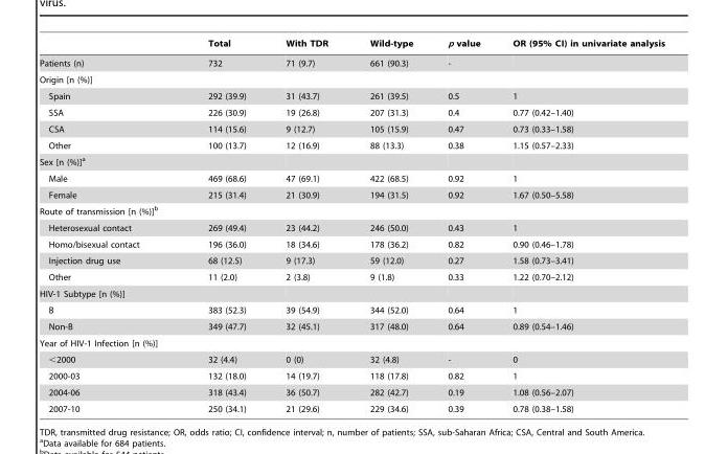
<table><thead><tr><td></td><td>Total</td><td>With TDR</td><td>Wild-type</td><td>p value</td><td>OR (95% CI) in univariate analysis</td></tr></thead><tbody><tr><td>Patients (n)</td><td>732</td><td>71 (9.7)</td><td>661 (90.3)</td><td>-</td><td></td></tr><tr><td colspan="6">Origin [n (%)]</td></tr><tr><td>Spain</td><td>292 (39.9)</td><td>31 (43.7)</td><td>261 (39.5)</td><td>0.5</td><td>1</td></tr><tr><td>SSA</td><td>226 (30.9)</td><td>19 (26.8)</td><td>207 (31.3)</td><td>0.4</td><td>0.77 (0.42–1.40)</td></tr><tr><td>CSA</td><td>114 (15.6)</td><td>9 (12.7)</td><td>105 (15.9)</td><td>0.47</td><td>0.73 (0.33–1.58)</td></tr><tr><td>Other</td><td>100 (13.7)</td><td>12 (16.9)</td><td>88 (13.3)</td><td>0.38</td><td>1.15 (0.57–2.33)</td></tr><tr><td colspan="6">Sex [n (%)]<sup>a</sup></td></tr><tr><td>Male</td><td>469 (68.6)</td><td>47 (69.1)</td><td>422 (68.5)</td><td>0.92</td><td>1</td></tr><tr><td>Female</td><td>215 (31.4)</td><td>21 (30.9)</td><td>194 (31.5)</td><td>0.92</td><td>1.67 (0.50–5.58)</td></tr><tr><td colspan="6">Route of transmission [n (%)]<sup>b</sup></td></tr><tr><td>Heterosexual contact</td><td>269 (49.4)</td><td>23 (44.2)</td><td>246 (50.0)</td><td>0.43</td><td>1</td></tr><tr><td>Homo/bisexual contact</td><td>196 (36.0)</td><td>18 (34.6)</td><td>178 (36.2)</td><td>0.82</td><td>0.90 (0.46–1.78)</td></tr><tr><td>Injection drug use</td><td>68 (12.5)</td><td>9 (17.3)</td><td>59 (12.0)</td><td>0.27</td><td>1.58 (0.73–3.41)</td></tr><tr><td>Other</td><td>11 (2.0)</td><td>2 (3.8)</td><td>9 (1.8)</td><td>0.33</td><td>1.22 (0.70–2.12)</td></tr><tr><td colspan="6">HIV-1 Subtype [n (%)]</td></tr><tr><td>B</td><td>383 (52.3)</td><td>39 (54.9)</td><td>344 (52.0)</td><td>0.64</td><td>1</td></tr><tr><td>Non-B</td><td>349 (47.7)</td><td>32 (45.1)</td><td>317 (48.0)</td><td>0.64</td><td>0.89 (0.54–1.46)</td></tr><tr><td colspan="6">Year of HIV-1 Infection [n (%)]</td></tr><tr><td>&lt;2000</td><td>32 (4.4)</td><td>0 (0)</td><td>32 (4.8)</td><td>-</td><td>0</td></tr><tr><td>2000-03</td><td>132 (18.0)</td><td>14 (19.7)</td><td>118 (17.8)</td><td>0.82</td><td>1</td></tr><tr><td>2004-06</td><td>318 (43.4)</td><td>36 (50.7)</td><td>282 (42.7)</td><td>0.19</td><td>1.08 (0.56–2.07)</td></tr><tr><td>2007-10</td><td>250 (34.1)</td><td>21 (29.6)</td><td>229 (34.6)</td><td>0.39</td><td>0.78 (0.38–1.58)</td></tr></tbody></table>